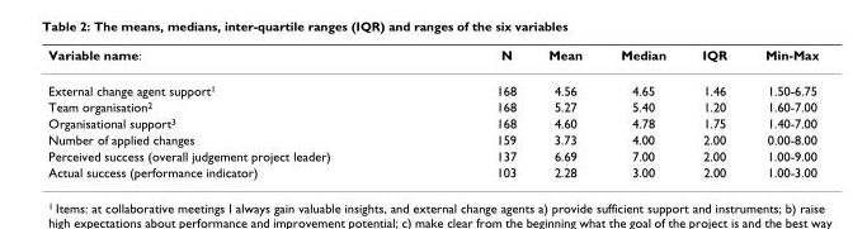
<table><thead><tr><td>Variable name:</td><td>N</td><td>Mean</td><td>Median</td><td>IQR</td><td>Min-Max</td></tr></thead><tbody><tr><td>External change agent support<sup>1</sup></td><td>168</td><td>4.56</td><td>4.65</td><td>1.46</td><td>1.50-6.75</td></tr><tr><td>Team organisation<sup>2</sup></td><td>168</td><td>5.27</td><td>5.40</td><td>1.20</td><td>1.60-7.00</td></tr><tr><td>Organisational support<sup>3</sup></td><td>168</td><td>4.60</td><td>4.78</td><td>1.75</td><td>1.40-7.00</td></tr><tr><td>Number of applied changes</td><td>159</td><td>3.73</td><td>4.00</td><td>2.00</td><td>0.00-8.00</td></tr><tr><td>Perceived success (overall judgement project leader)</td><td>137</td><td>6.69</td><td>7.00</td><td>2.00</td><td>1.00-9.00</td></tr><tr><td>Actual success (performance indicator)</td><td>103</td><td>2.28</td><td>3.00</td><td>2.00</td><td>1.00-3.00</td></tr></tbody></table>